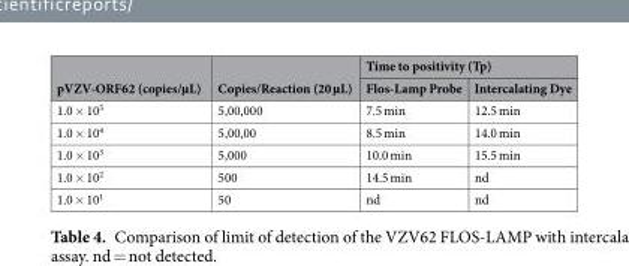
<table><thead><tr><td rowspan="2">pVZV-ORF62 (copies/µL)</td><td rowspan="2">Copies/Reaction (20 µL)</td><td colspan="2">Time to positivity (Tp)</td></tr><tr><td>Flos-Lamp Probe</td><td>Intercalating Dye</td></tr></thead><tbody><tr><td>1.0 × 10<sup>5</sup></td><td>5,00,000</td><td>7.5 min</td><td>12.5 min</td></tr><tr><td>1.0 × 10<sup>4</sup></td><td>5,00,00</td><td>8.5 min</td><td>14.0 min</td></tr><tr><td>1.0 × 10<sup>3</sup></td><td>5,000</td><td>10.0 min</td><td>15.5 min</td></tr><tr><td>1.0 × 10<sup>2</sup></td><td>500</td><td>14.5 min</td><td>nd</td></tr><tr><td>1.0 × 10<sup>1</sup></td><td>50</td><td>nd</td><td>nd</td></tr></tbody></table>